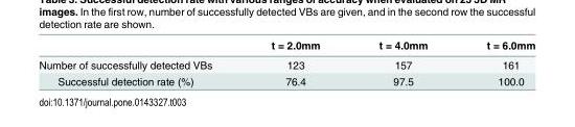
<table><thead><tr><td></td><td>t = 2.0mm</td><td>t = 4.0mm</td><td>t = 6.0mm</td></tr></thead><tbody><tr><td>Number of successfully detected VBs</td><td>123</td><td>157</td><td>161</td></tr><tr><td>Successful detection rate (%)</td><td>76.4</td><td>97.5</td><td>100.0</td></tr></tbody></table>